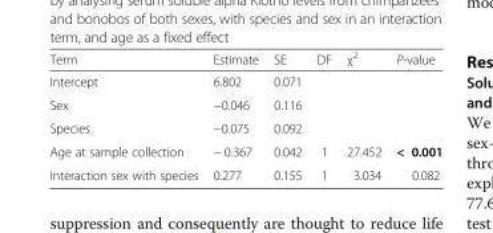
<table><thead><tr><td>Term</td><td>Estimate</td><td>SE</td><td>DF</td><td>χ<sup>2</sup></td><td>P-value</td></tr></thead><tbody><tr><td>Intercept</td><td>6.802</td><td>0.071</td><td></td><td></td><td></td></tr><tr><td>Sex</td><td>−0.046</td><td>0.116</td><td></td><td></td><td></td></tr><tr><td>Species</td><td>−0.075</td><td>0.092</td><td></td><td></td><td></td></tr><tr><td>Age at sample collection</td><td>− 0.367</td><td>0.042</td><td>1</td><td>27.452</td><td>&lt; 0.001</td></tr><tr><td>Interaction sex with species</td><td>0.277</td><td>0.155</td><td>1</td><td>3.034</td><td>0.082</td></tr></tbody></table>